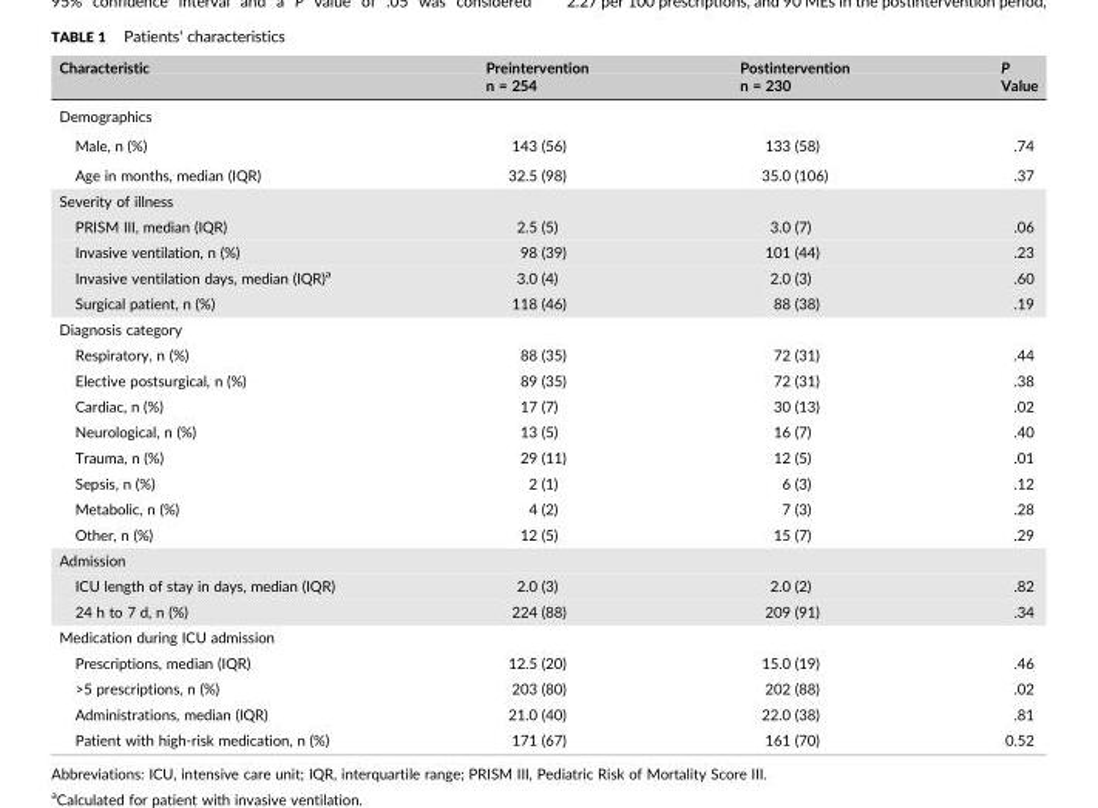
<table><thead><tr><td rowspan="2">Characteristic</td><td rowspan="2">Preintervention n = 254</td><td rowspan="2">Postintervention n = 230</td><td rowspan="2">P Value</td></tr><tr></tr></thead><tbody><tr><td colspan="4">Demographics</td></tr><tr><td>Male, n (%)</td><td>143 (56)</td><td>133 (58)</td><td>.74</td></tr><tr><td>Age in months, median (IQR)</td><td>32.5 (98)</td><td>35.0 (106)</td><td>.37</td></tr><tr><td colspan="4">Severity of illness</td></tr><tr><td>PRISM III, median (IQR)</td><td>2.5 (5)</td><td>3.0 (7)</td><td>.06</td></tr><tr><td>Invasive ventilation, n (%)</td><td>98 (39)</td><td>101 (44)</td><td>.23</td></tr><tr><td>Invasive ventilation days, median (IQR)<sup>a</sup></td><td>3.0 (4)</td><td>2.0 (3)</td><td>.60</td></tr><tr><td>Surgical patient, n (%)</td><td>118 (46)</td><td>88 (38)</td><td>.19</td></tr><tr><td colspan="4">Diagnosis category</td></tr><tr><td>Respiratory, n (%)</td><td>88 (35)</td><td>72 (31)</td><td>.44</td></tr><tr><td>Elective postsurgical, n (%)</td><td>89 (35)</td><td>72 (31)</td><td>.38</td></tr><tr><td>Cardiac, n (%)</td><td>17 (7)</td><td>30 (13)</td><td>.02</td></tr><tr><td>Neurological, n (%)</td><td>13 (5)</td><td>16 (7)</td><td>.40</td></tr><tr><td>Trauma, n (%)</td><td>29 (11)</td><td>12 (5)</td><td>.01</td></tr><tr><td>Sepsis, n (%)</td><td>2 (1)</td><td>6 (3)</td><td>.12</td></tr><tr><td>Metabolic, n (%)</td><td>4 (2)</td><td>7 (3)</td><td>.28</td></tr><tr><td>Other, n (%)</td><td>12 (5)</td><td>15 (7)</td><td>.29</td></tr><tr><td colspan="4">Admission</td></tr><tr><td>ICU length of stay in days, median (IQR)</td><td>2.0 (3)</td><td>2.0 (2)</td><td>.82</td></tr><tr><td>24 h to 7 d, n (%)</td><td>224 (88)</td><td>209 (91)</td><td>.34</td></tr><tr><td colspan="4">Medication during ICU admission</td></tr><tr><td>Prescriptions, median (IQR)</td><td>12.5 (20)</td><td>15.0 (19)</td><td>.46</td></tr><tr><td>&gt;5 prescriptions, n (%)</td><td>203 (80)</td><td>202 (88)</td><td>.02</td></tr><tr><td>Administrations, median (IQR)</td><td>21.0 (40)</td><td>22.0 (38)</td><td>.81</td></tr><tr><td>Patient with high‐risk medication, n (%)</td><td>171 (67)</td><td>161 (70)</td><td>0.52</td></tr></tbody></table>